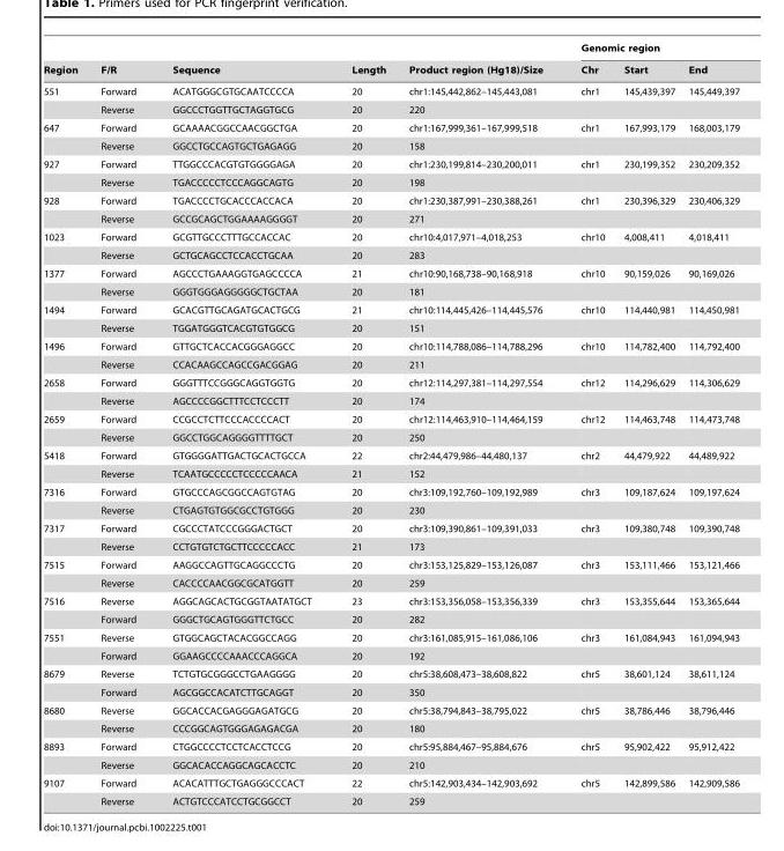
<table><thead><tr><td rowspan="2">Region</td><td rowspan="2">F/R</td><td rowspan="2">Sequence</td><td rowspan="2">Length</td><td rowspan="2">Product region (Hg18)/Size</td><td colspan="3">Genomic region</td></tr><tr><td>Chr</td><td>Start</td><td>End</td></tr></thead><tbody><tr><td rowspan="2">551</td><td>Forward</td><td>ACATGGGCGTGCAATCCCCA</td><td>20</td><td>chr1:145,442,862–145,443,081</td><td>chr1</td><td>145,439,397</td><td>145,449,397</td></tr><tr><td>Reverse</td><td>GGCCCTGGTTGCTAGGTGCG</td><td>20</td><td>220</td><td></td><td></td><td></td></tr><tr><td rowspan="2">647</td><td>Forward</td><td>GCAAAACGGCCAACGGCTGA</td><td>20</td><td>chr1:167,999,361–167,999,518</td><td>chr1</td><td>167,993,179</td><td>168,003,179</td></tr><tr><td>Reverse</td><td>GGCCTGCCAGTGCTGAGAGG</td><td>20</td><td>158</td><td></td><td></td><td></td></tr><tr><td rowspan="2">927</td><td>Forward</td><td>TTGGCCCACGTGTGGGGAGA</td><td>20</td><td>chr1:230,199,814–230,200,011</td><td>chr1</td><td>230,199,352</td><td>230,209,352</td></tr><tr><td>Reverse</td><td>TGACCCCCTCCCAGGCAGTG</td><td>20</td><td>198</td><td></td><td></td><td></td></tr><tr><td rowspan="2">928</td><td>Forward</td><td>TGACCCCTGCACCCACCACA</td><td>20</td><td>chr1:230,387,991–230,388,261</td><td>chr1</td><td>230,396,329</td><td>230,406,329</td></tr><tr><td>Reverse</td><td>GCCGCAGCTGGAAAAGGGGT</td><td>20</td><td>271</td><td></td><td></td><td></td></tr><tr><td rowspan="2">1023</td><td>Forward</td><td>GCGTTGCCCTTTGCCACCAC</td><td>20</td><td>chr10:4,017,971–4,018,253</td><td>chr10</td><td>4,008,411</td><td>4,018,411</td></tr><tr><td>Reverse</td><td>GCTGCAGCCTCCACCTGCAA</td><td>20</td><td>283</td><td></td><td></td><td></td></tr><tr><td rowspan="2">1377</td><td>Forward</td><td>AGCCCTGAAAGGTGAGCCCCA</td><td>21</td><td>chr10:90,168,738–90,168,918</td><td>chr10</td><td>90,159,026</td><td>90,169,026</td></tr><tr><td>Reverse</td><td>GGGTGGGAGGGGGCTGCTAA</td><td>20</td><td>181</td><td></td><td></td><td></td></tr><tr><td rowspan="2">1494</td><td>Forward</td><td>GCACGTTGCAGATGCACTGCG</td><td>21</td><td>chr10:114,445,426–114,445,576</td><td>chr10</td><td>114,440,981</td><td>114,450,981</td></tr><tr><td>Reverse</td><td>TGGATGGGTCACGTGTGGCG</td><td>20</td><td>151</td><td></td><td></td><td></td></tr><tr><td rowspan="2">1496</td><td>Forward</td><td>GTTGCTCACCACGGGAGGCC</td><td>20</td><td>chr10:114,788,086–114,788,296</td><td>chr10</td><td>114,782,400</td><td>114,792,400</td></tr><tr><td>Reverse</td><td>CCACAAGCCAGCCGACGGAG</td><td>20</td><td>211</td><td></td><td></td><td></td></tr><tr><td rowspan="2">2658</td><td>Forward</td><td>GGGTTTCCGGGCAGGTGGTG</td><td>20</td><td>chr12:114,297,381–114,297,554</td><td>chr12</td><td>114,296,629</td><td>114,306,629</td></tr><tr><td>Reverse</td><td>AGCCCCGGCTTTCCTCCCTT</td><td>20</td><td>174</td><td></td><td></td><td></td></tr><tr><td rowspan="2">2659</td><td>Forward</td><td>CCGCCTCTTCCCACCCCACT</td><td>20</td><td>chr12:114,463,910–114,464,159</td><td>chr12</td><td>114,463,748</td><td>114,473,748</td></tr><tr><td>Reverse</td><td>GGCCTGGCAGGGGTTTTGCT</td><td>20</td><td>250</td><td></td><td></td><td></td></tr><tr><td rowspan="2">5418</td><td>Forward</td><td>GTGGGGATTGACTGCACTGCCA</td><td>22</td><td>chr2:44,479,986–44,480,137</td><td>chr2</td><td>44,479,922</td><td>44,489,922</td></tr><tr><td>Reverse</td><td>TCAATGCCCCCTCCCCCAACA</td><td>21</td><td>152</td><td></td><td></td><td></td></tr><tr><td rowspan="2">7316</td><td>Forward</td><td>GTGCCCAGCGGCCAGTGTAG</td><td>20</td><td>chr3:109,192,760–109,192,989</td><td>chr3</td><td>109,187,624</td><td>109,197,624</td></tr><tr><td>Reverse</td><td>CTGAGTGTGGCGCCTGTGGG</td><td>20</td><td>230</td><td></td><td></td><td></td></tr><tr><td rowspan="2">7317</td><td>Forward</td><td>CGCCCTATCCCGGGACTGCT</td><td>20</td><td>chr3:109,390,861–109,391,033</td><td>chr3</td><td>109,380,748</td><td>109,390,748</td></tr><tr><td>Reverse</td><td>CCTGTGTCTGCTTCCCCCACC</td><td>21</td><td>173</td><td></td><td></td><td></td></tr><tr><td rowspan="2">7515</td><td>Forward</td><td>AAGGCCAGTTGCAGGCCCTG</td><td>20</td><td>chr3:153,125,829–153,126,087</td><td>chr3</td><td>153,111,466</td><td>153,121,466</td></tr><tr><td>Reverse</td><td>CACCCCAACGGCGCATGGTT</td><td>20</td><td>259</td><td></td><td></td><td></td></tr><tr><td rowspan="2">7516</td><td>Reverse</td><td>AGGCAGCACTGCGGTAATATGCT</td><td>23</td><td>chr3:153,356,058–153,356,339</td><td>chr3</td><td>153,355,644</td><td>153,365,644</td></tr><tr><td>Forward</td><td>GGGCTGCAGTGGGTTCTGCC</td><td>20</td><td>282</td><td></td><td></td><td></td></tr><tr><td rowspan="2">7551</td><td>Reverse</td><td>GTGGCAGCTACACGGCCAGG</td><td>20</td><td>chr3:161,085,915–161,086,106</td><td>chr3</td><td>161,084,943</td><td>161,094,943</td></tr><tr><td>Forward</td><td>GGAAGCCCCAAACCCAGGCA</td><td>20</td><td>192</td><td></td><td></td><td></td></tr><tr><td rowspan="2">8679</td><td>Reverse</td><td>TCTGTGCGGGCCTGAAGGGG</td><td>20</td><td>chr5:38,608,473–38,608,822</td><td>chr5</td><td>38,601,124</td><td>38,611,124</td></tr><tr><td>Forward</td><td>AGCGGCCACATCTTGCAGGT</td><td>20</td><td>350</td><td></td><td></td><td></td></tr><tr><td rowspan="2">8680</td><td>Reverse</td><td>GGCACCACGAGGGAGATGCG</td><td>20</td><td>chr5:38,794,843–38,795,022</td><td>chr5</td><td>38,786,446</td><td>38,796,446</td></tr><tr><td>Reverse</td><td>CCCGGCAGTGGGAGAGACGA</td><td>20</td><td>180</td><td></td><td></td><td></td></tr><tr><td rowspan="2">8893</td><td>Forward</td><td>CTGGCCCCTCCTCACCTCCG</td><td>20</td><td>chr5:95,884,467–95,884,676</td><td>chr5</td><td>95,902,422</td><td>95,912,422</td></tr><tr><td>Reverse</td><td>GGCACACCAGGCAGCACCTC</td><td>20</td><td>210</td><td></td><td></td><td></td></tr><tr><td rowspan="2">9107</td><td>Forward</td><td>ACACATTTGCTGAGGGCCCACT</td><td>22</td><td>chr5:142,903,434–142,903,692</td><td>chr5</td><td>142,899,586</td><td>142,909,586</td></tr><tr><td>Reverse</td><td>ACTGTCCCATCCTGCGGCCT</td><td>20</td><td>259</td><td></td><td></td><td></td></tr></tbody></table>